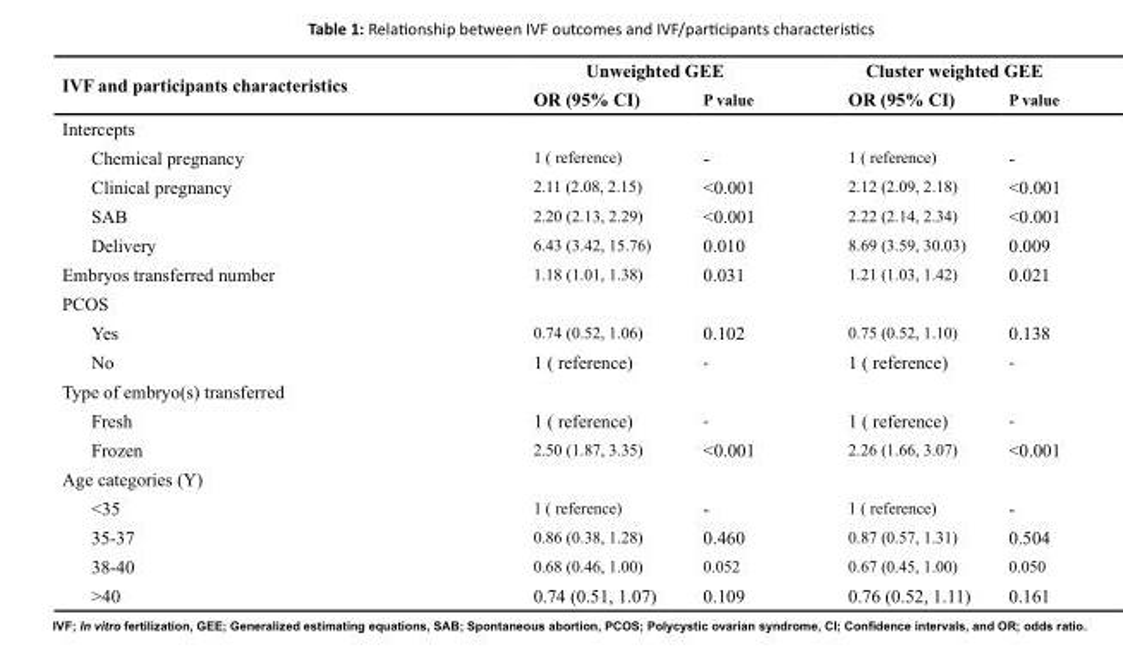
<table><thead><tr><td rowspan="2">IVF and participants characteristics</td><td colspan="2">Unweighted GEE</td><td colspan="2">Cluster weighted GEE</td></tr><tr><td>OR (95% CI)</td><td>P value</td><td>OR (95% CI)</td><td>P value</td></tr></thead><tbody><tr><td colspan="5">Intercepts</td></tr><tr><td>Chemical pregnancy</td><td>1 ( reference)</td><td>-</td><td>1 ( reference)</td><td>-</td></tr><tr><td>Clinical pregnancy</td><td>2.11 (2.08, 2.15)</td><td>&lt;0.001</td><td>2.12 (2.09, 2.18)</td><td>&lt;0.001</td></tr><tr><td>SAB</td><td>2.20 (2.13, 2.29)</td><td>&lt;0.001</td><td>2.22 (2.14, 2.34)</td><td>&lt;0.001</td></tr><tr><td>Delivery</td><td>6.43 (3.42, 15.76)</td><td>0.010</td><td>8.69 (3.59, 30.03)</td><td>0.009</td></tr><tr><td>Embryos transferred number</td><td>1.18 (1.01, 1.38)</td><td>0.031</td><td>1.21 (1.03, 1.42)</td><td>0.021</td></tr><tr><td colspan="5">PCOS</td></tr><tr><td>Yes</td><td>0.74 (0.52, 1.06)</td><td>0.102</td><td>0.75 (0.52, 1.10)</td><td>0.138</td></tr><tr><td>No</td><td>1 ( reference)</td><td>-</td><td>1 ( reference)</td><td>-</td></tr><tr><td colspan="5">Type of embryo(s) transferred</td></tr><tr><td>Fresh</td><td>1 ( reference)</td><td>-</td><td>1 ( reference)</td><td>-</td></tr><tr><td>Frozen</td><td>2.50 (1.87, 3.35)</td><td>&lt;0.001</td><td>2.26 (1.66, 3.07)</td><td>&lt;0.001</td></tr><tr><td colspan="5">Age categories (Y)</td></tr><tr><td>&lt;35</td><td>1 ( reference)</td><td>-</td><td>1 ( reference)</td><td>-</td></tr><tr><td>35-37</td><td>0.86 (0.38, 1.28)</td><td>0.460</td><td>0.87 (0.57, 1.31)</td><td>0.504</td></tr><tr><td>38-40</td><td>0.68 (0.46, 1.00)</td><td>0.052</td><td>0.67 (0.45, 1.00)</td><td>0.050</td></tr><tr><td>&gt;40</td><td>0.74 (0.51, 1.07)</td><td>0.109</td><td>0.76 (0.52, 1.11)</td><td>0.161</td></tr></tbody></table>